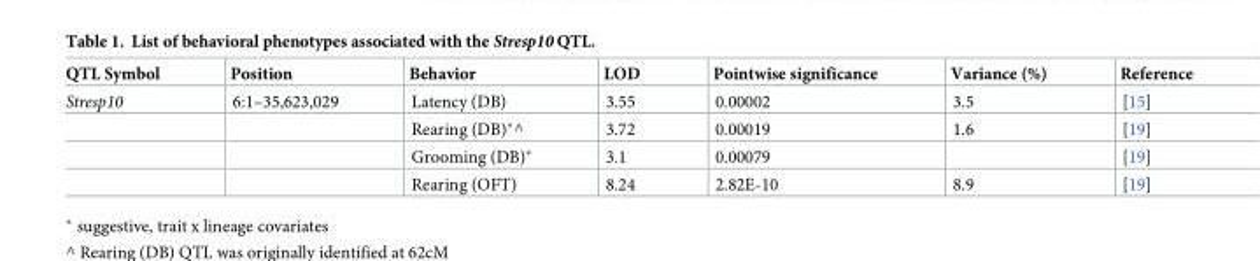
<table><thead><tr><td>QTL Symbol</td><td>Position</td><td>Behavior</td><td>LOD</td><td>Pointwise significance</td><td>Variance (%)</td><td>Reference</td></tr></thead><tbody><tr><td rowspan="4">Stresp10</td><td>6:1–35,623,029</td><td>Latency (DB)</td><td>3.55</td><td>0.00002</td><td>3.5</td><td>[15]</td></tr><tr><td></td><td>Rearing (DB)*^</td><td>3.72</td><td>0.00019</td><td>1.6</td><td>[19]</td></tr><tr><td></td><td>Grooming (DB)*</td><td>3.1</td><td>0.00079</td><td></td><td>[19]</td></tr><tr><td></td><td>Rearing (OFT)</td><td>8.24</td><td>2.82E-10</td><td>8.9</td><td>[19]</td></tr></tbody></table>